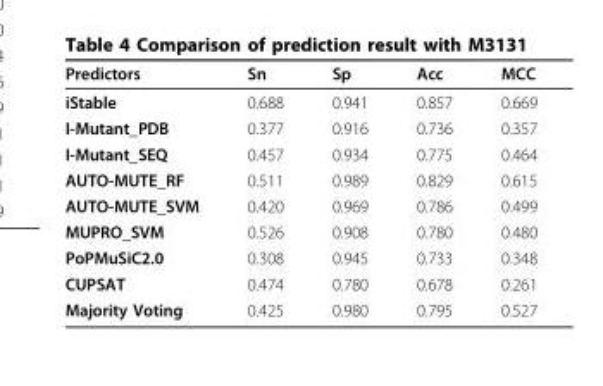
<table><thead><tr><td>Predictors</td><td>Sn</td><td>Sp</td><td>Acc</td><td>MCC</td></tr></thead><tbody><tr><td>iStable</td><td>0.688</td><td>0.941</td><td>0.857</td><td>0.669</td></tr><tr><td>I-Mutant_PDB</td><td>0.377</td><td>0.916</td><td>0.736</td><td>0.357</td></tr><tr><td>I-Mutant_SEQ</td><td>0.457</td><td>0.934</td><td>0.775</td><td>0.464</td></tr><tr><td>AUTO-MUTE_RF</td><td>0.511</td><td>0.989</td><td>0.829</td><td>0.615</td></tr><tr><td>AUTO-MUTE_SVM</td><td>0.420</td><td>0.969</td><td>0.786</td><td>0.499</td></tr><tr><td>MUPRO_SVM</td><td>0.526</td><td>0.908</td><td>0.780</td><td>0.480</td></tr><tr><td>PoPMuSiC2.0</td><td>0.308</td><td>0.945</td><td>0.733</td><td>0.348</td></tr><tr><td>CUPSAT</td><td>0.474</td><td>0.780</td><td>0.678</td><td>0.261</td></tr><tr><td>Majority Voting</td><td>0.425</td><td>0.980</td><td>0.795</td><td>0.527</td></tr></tbody></table>